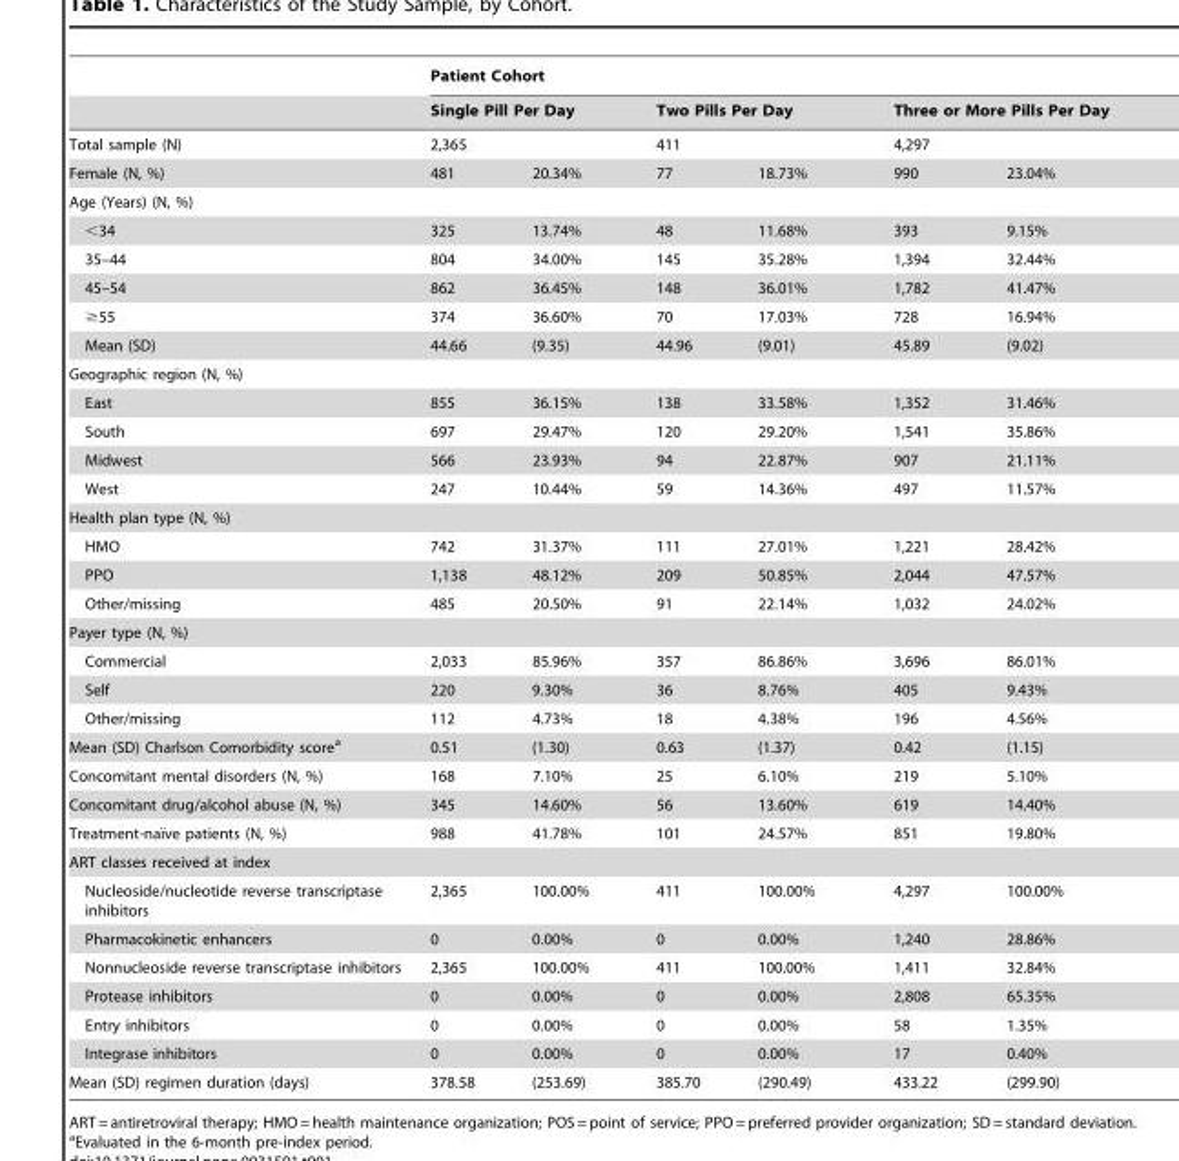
<table><thead><tr><td rowspan="3">Total sample (N)</td><td colspan="6">Patient Cohort</td></tr><tr><td colspan="2">Single Pill Per Day</td><td colspan="2">Two Pills Per Day</td><td colspan="2">Three or More Pills Per Day</td></tr><tr><td>2,365</td><td></td><td>411</td><td></td><td>4,297</td><td></td></tr></thead><tbody><tr><td>Female (N, %)</td><td>481</td><td>20.34%</td><td>77</td><td>18.73%</td><td>990</td><td>23.04%</td></tr><tr><td colspan="7">Age (Years) (N, %)</td></tr><tr><td>&lt;34</td><td>325</td><td>13.74%</td><td>48</td><td>11.68%</td><td>393</td><td>9.15%</td></tr><tr><td>35–44</td><td>804</td><td>34.00%</td><td>145</td><td>35.28%</td><td>1,394</td><td>32.44%</td></tr><tr><td>45–54</td><td>862</td><td>36.45%</td><td>148</td><td>36.01%</td><td>1,782</td><td>41.47%</td></tr><tr><td>≥55</td><td>374</td><td>36.60%</td><td>70</td><td>17.03%</td><td>728</td><td>16.94%</td></tr><tr><td>Mean (SD)</td><td>44.66</td><td>(9.35)</td><td>44.96</td><td>(9.01)</td><td>45.89</td><td>(9.02)</td></tr><tr><td colspan="7">Geographic region (N, %)</td></tr><tr><td>East</td><td>855</td><td>36.15%</td><td>138</td><td>33.58%</td><td>1,352</td><td>31.46%</td></tr><tr><td>South</td><td>697</td><td>29.47%</td><td>120</td><td>29.20%</td><td>1,541</td><td>35.86%</td></tr><tr><td>Midwest</td><td>566</td><td>23.93%</td><td>94</td><td>22.87%</td><td>907</td><td>21.11%</td></tr><tr><td>West</td><td>247</td><td>10.44%</td><td>59</td><td>14.36%</td><td>497</td><td>11.57%</td></tr><tr><td colspan="7">Health plan type (N, %)</td></tr><tr><td>HMO</td><td>742</td><td>31.37%</td><td>111</td><td>27.01%</td><td>1,221</td><td>28.42%</td></tr><tr><td>PPO</td><td>1,138</td><td>48.12%</td><td>209</td><td>50.85%</td><td>2,044</td><td>47.57%</td></tr><tr><td>Other/missing</td><td>485</td><td>20.50%</td><td>91</td><td>22.14%</td><td>1,032</td><td>24.02%</td></tr><tr><td colspan="7">Payer type (N, %)</td></tr><tr><td>Commercial</td><td>2,033</td><td>85.96%</td><td>357</td><td>86.86%</td><td>3,696</td><td>86.01%</td></tr><tr><td>Self</td><td>220</td><td>9.30%</td><td>36</td><td>8.76%</td><td>405</td><td>9.43%</td></tr><tr><td>Other/missing</td><td>112</td><td>4.73%</td><td>18</td><td>4.38%</td><td>196</td><td>4.56%</td></tr><tr><td>Mean (SD) Charlson Comorbidity score<sup>a</sup></td><td>0.51</td><td>(1.30)</td><td>0.63</td><td>(1.37)</td><td>0.42</td><td>(1.15)</td></tr><tr><td>Concomitant mental disorders (N, %)</td><td>168</td><td>7.10%</td><td>25</td><td>6.10%</td><td>219</td><td>5.10%</td></tr><tr><td>Concomitant drug/alcohol abuse (N, %)</td><td>345</td><td>14.60%</td><td>56</td><td>13.60%</td><td>619</td><td>14.40%</td></tr><tr><td>Treatment-naı¨ve patients (N, %)</td><td>988</td><td>41.78%</td><td>101</td><td>24.57%</td><td>851</td><td>19.80%</td></tr><tr><td colspan="7">ART classes received at index</td></tr><tr><td>Nucleoside/nucleotide reverse transcriptase inhibitors</td><td>2,365</td><td>100.00%</td><td>411</td><td>100.00%</td><td>4,297</td><td>100.00%</td></tr><tr><td>Pharmacokinetic enhancers</td><td>0</td><td>0.00%</td><td>0</td><td>0.00%</td><td>1,240</td><td>28.86%</td></tr><tr><td>Nonnucleoside reverse transcriptase inhibitors</td><td>2,365</td><td>100.00%</td><td>411</td><td>100.00%</td><td>1,411</td><td>32.84%</td></tr><tr><td>Protease inhibitors</td><td>0</td><td>0.00%</td><td>0</td><td>0.00%</td><td>2,808</td><td>65.35%</td></tr><tr><td>Entry inhibitors</td><td>0</td><td>0.00%</td><td>0</td><td>0.00%</td><td>58</td><td>1.35%</td></tr><tr><td>Integrase inhibitors</td><td>0</td><td>0.00%</td><td>0</td><td>0.00%</td><td>17</td><td>0.40%</td></tr><tr><td>Mean (SD) regimen duration (days)</td><td>378.58</td><td>(253.69)</td><td>385.70</td><td>(290.49)</td><td>433.22</td><td>(299.90)</td></tr></tbody></table>